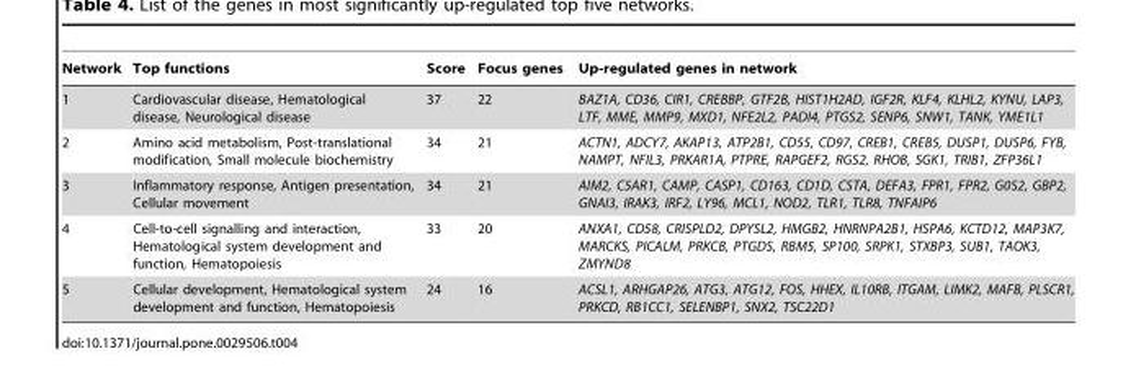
<table><thead><tr><td>Network</td><td>Top functions</td><td>Score</td><td>Focus genes</td><td>Up-regulated genes in network</td></tr></thead><tbody><tr><td>1</td><td>Cardiovascular disease, Hematological disease, Neurological disease</td><td>37</td><td>22</td><td>BAZ1A, CD36, CIR1, CREBBP, GTF2B, HIST1H2AD, IGF2R, KLF4, KLHL2, KYNU, LAP3, LTF, MME, MMP9, MXD1, NFE2L2, PADI4, PTGS2, SENP6, SNW1, TANK, YME1L1</td></tr><tr><td>2</td><td>Amino acid metabolism, Post-translational modification, Small molecule biochemistry</td><td>34</td><td>21</td><td>ACTN1, ADCY7, AKAP13, ATP2B1, CD55, CD97, CREB1, CREB5, DUSP1, DUSP6, FYB, NAMPT, NFIL3, PRKAR1A, PTPRE, RAPGEF2, RGS2, RHOB, SGK1, TRIB1, ZFP36L1</td></tr><tr><td>3</td><td>Inflammatory response, Antigen presentation, Cellular movement</td><td>34</td><td>21</td><td>AIM2, C5AR1, CAMP, CASP1, CD163, CD1D, CSTA, DEFA3, FPR1, FPR2, G0S2, GBP2, GNAI3, IRAK3, IRF2, LY96, MCL1, NOD2, TLR1, TLR8, TNFAIP6</td></tr><tr><td>4</td><td>Cell-to-cell signalling and interaction, Hematological system development and function, Hematopoiesis</td><td>33</td><td>20</td><td>ANXA1, CD58, CRISPLD2, DPYSL2, HMGB2, HNRNPA2B1, HSPA6, KCTD12, MAP3K7, MARCKS, PICALM, PRKCB, PTGDS, RBM5, SP100, SRPK1, STXBP3, SUB1, TAOK3, ZMYND8</td></tr><tr><td>5</td><td>Cellular development, Hematological system development and function, Hematopoiesis</td><td>24</td><td>16</td><td>ACSL1, ARHGAP26, ATG3, ATG12, FOS, HHEX, IL10RB, ITGAM, LIMK2, MAFB, PLSCR1, PRKCD, RB1CC1, SELENBP1, SNX2, TSC22D1</td></tr></tbody></table>